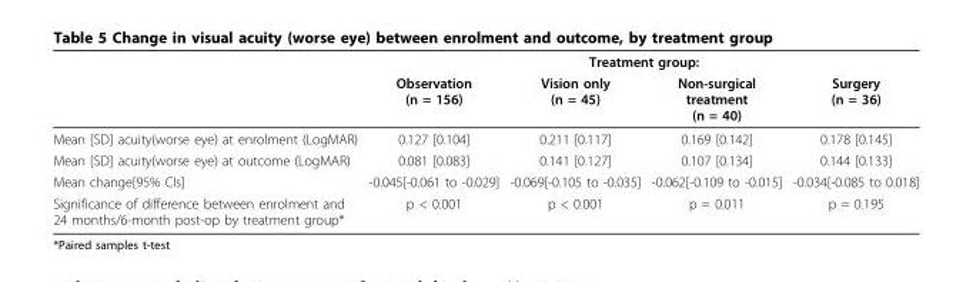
<table><thead><tr><td rowspan="2"></td><td colspan="4">Treatment group:</td></tr><tr><td>Observation (n = 156)</td><td>Vision only (n = 45)</td><td>Non-surgical treatment (n = 40)</td><td>Surgery (n = 36)</td></tr></thead><tbody><tr><td>Mean [SD] acuity(worse eye) at enrolment (LogMAR)</td><td>0.127 [0.104]</td><td>0.211 [0.117]</td><td>0.169 [0.142]</td><td>0.178 [0.145]</td></tr><tr><td>Mean [SD] acuity(worse eye) at outcome (LogMAR)</td><td>0.081 [0.083]</td><td>0.141 [0.127]</td><td>0.107 [0.134]</td><td>0.144 [0.133]</td></tr><tr><td>Mean change[95% CIs]</td><td>-0.045[-0.061 to -0.029]</td><td>-0.069[-0.105 to -0.035]</td><td>-0.062[-0.109 to -0.015]</td><td>-0.034[-0.085 to 0.018]</td></tr><tr><td>Significance of difference between enrolment and 24 months/6-month post-op by treatment group*</td><td>p &lt; 0.001</td><td>p &lt; 0.001</td><td>p = 0.011</td><td>p = 0.195</td></tr></tbody></table>